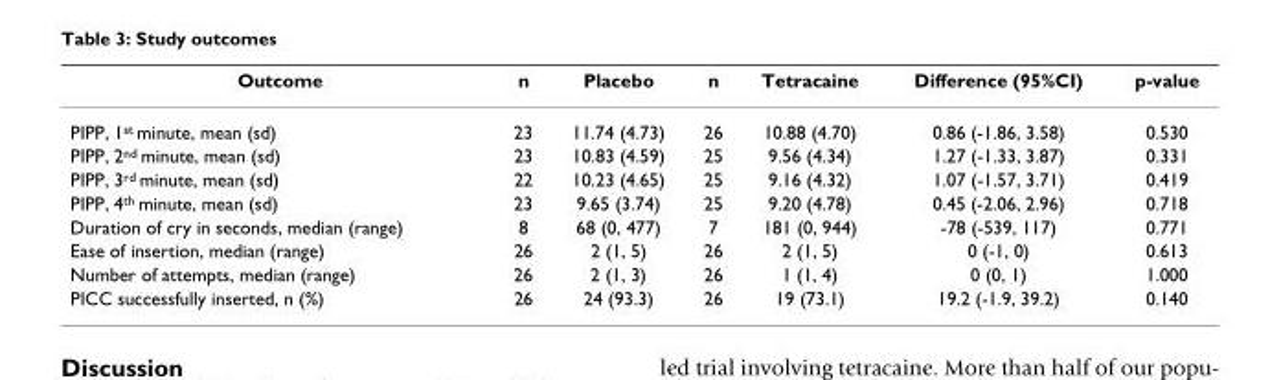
<table><thead><tr><td>Outcome</td><td>n</td><td>Placebo</td><td>n</td><td>Tetracaine</td><td>Difference (95%CI)</td><td>p-value</td></tr></thead><tbody><tr><td>PIPP, 1st minute, mean (sd)</td><td>23</td><td>11.74 (4.73)</td><td>26</td><td>10.88 (4.70)</td><td>0.86 (-1.86, 3.58)</td><td>0.530</td></tr><tr><td>PIPP, 2nd minute, mean (sd)</td><td>23</td><td>10.83 (4.59)</td><td>25</td><td>9.56 (4.34)</td><td>1.27 (-1.33, 3.87)</td><td>0.331</td></tr><tr><td>PIPP, 3rd minute, mean (sd)</td><td>22</td><td>10.23 (4.65)</td><td>25</td><td>9.16 (4.32)</td><td>1.07 (-1.57, 3.71)</td><td>0.419</td></tr><tr><td>PIPP, 4th minute, mean (sd)</td><td>23</td><td>9.65 (3.74)</td><td>25</td><td>9.20 (4.78)</td><td>0.45 (-2.06, 2.96)</td><td>0.718</td></tr><tr><td>Duration of cry in seconds, median (range)</td><td>8</td><td>68 (0, 477)</td><td>7</td><td>181 (0, 944)</td><td>-78 (-539, 117)</td><td>0.771</td></tr><tr><td>Ease of insertion, median (range)</td><td>26</td><td>2 (1, 5)</td><td>26</td><td>2 (1, 5)</td><td>0 (-1, 0)</td><td>0.613</td></tr><tr><td>Number of attempts, median (range)</td><td>26</td><td>2 (1, 3)</td><td>26</td><td>1 (1, 4)</td><td>0 (0, 1)</td><td>1.000</td></tr><tr><td>PICC successfully inserted, n (%)</td><td>26</td><td>24 (93.3)</td><td>26</td><td>19 (73.1)</td><td>19.2 (-1.9, 39.2)</td><td>0.140</td></tr></tbody></table>